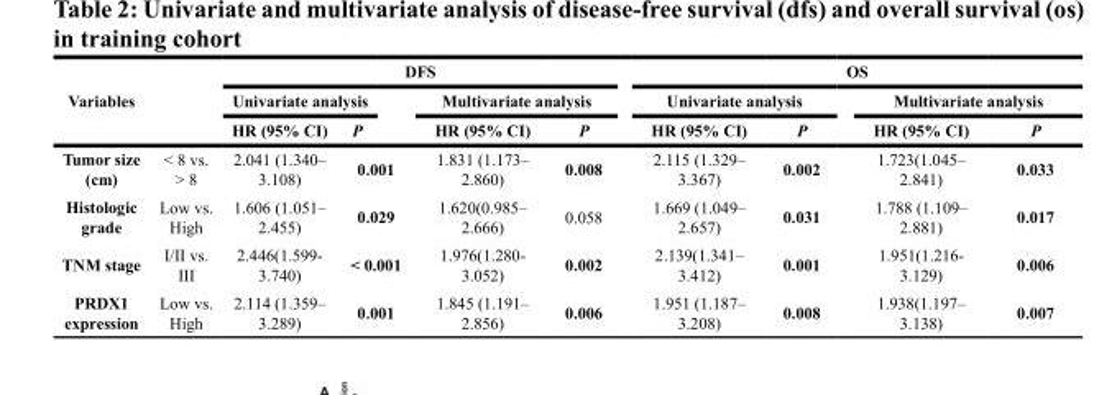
<table><thead><tr><td rowspan="3">Variables</td><td rowspan="3"></td><td colspan="4">DFS</td><td colspan="4">OS</td></tr><tr><td colspan="2">Univariate analysis</td><td colspan="2">Multivariate analysis</td><td colspan="2">Univariate analysis</td><td colspan="2">Multivariate analysis</td></tr><tr><td>HR (95% CI)</td><td>P</td><td>HR (95% CI)</td><td>P</td><td>HR (95% CI)</td><td>P</td><td>HR (95% CI)</td><td>P</td></tr></thead><tbody><tr><td>Tumor size (cm)</td><td>&lt; 8 vs. &gt; 8</td><td>2.041 (1.340– 3.108)</td><td>0.001</td><td>1.831 (1.173– 2.860)</td><td>0.008</td><td>2.115 (1.329– 3.367)</td><td>0.002</td><td>1.723(1.045– 2.841)</td><td>0.033</td></tr><tr><td>Histologic grade</td><td>Low vs. High</td><td>1.606 (1.051– 2.455)</td><td>0.029</td><td>1.620(0.985– 2.666)</td><td>0.058</td><td>1.669 (1.049– 2.657)</td><td>0.031</td><td>1.788 (1.109– 2.881)</td><td>0.017</td></tr><tr><td>TNM stage</td><td>I/II vs. III</td><td>2.446(1.599- 3.740)</td><td>&lt; 0.001</td><td>1.976(1.280- 3.052)</td><td>0.002</td><td>2.139(1.341– 3.412)</td><td>0.001</td><td>1.951(1.216- 3.129)</td><td>0.006</td></tr><tr><td>PRDX1 expression</td><td>Low vs. High</td><td>2.114 (1.359– 3.289)</td><td>0.001</td><td>1.845 (1.191– 2.856)</td><td>0.006</td><td>1.951 (1.187– 3.208)</td><td>0.008</td><td>1.938(1.197– 3.138)</td><td>0.007</td></tr></tbody></table>